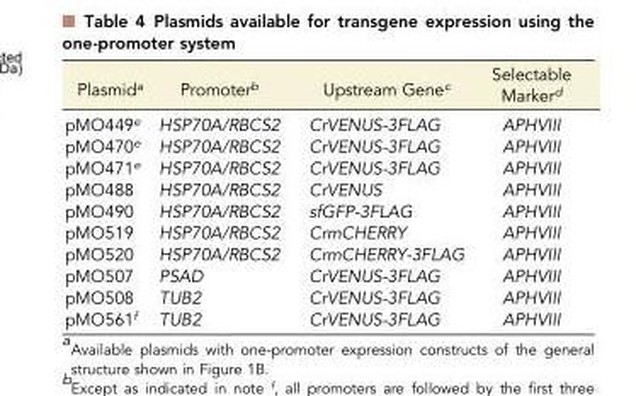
<table><thead><tr><td>Plasmid<sup>a</sup></td><td>Promoter<sup>b</sup></td><td>Upstream Gene<sup>c</sup></td><td>Selectable Marker<sup>d</sup></td></tr></thead><tbody><tr><td>pMO449<sup>e</sup></td><td>HSP70A/RBCS2</td><td>CrVENUS-3FLAG</td><td>APHVIII</td></tr><tr><td>pMO470<sup>e</sup></td><td>HSP70A/RBCS2</td><td>CrVENUS-3FLAG</td><td>APHVIII</td></tr><tr><td>pMO471<sup>e</sup></td><td>HSP70A/RBCS2</td><td>CrVENUS-3FLAG</td><td>APHVIII</td></tr><tr><td>pMO488</td><td>HSP70A/RBCS2</td><td>CrVENUS</td><td>APHVIII</td></tr><tr><td>pMO490</td><td>HSP70A/RBCS2</td><td>sfGFP-3FLAG</td><td>APHVIII</td></tr><tr><td>pMO519</td><td>HSP70A/RBCS2</td><td>CrmCHERRY</td><td>APHVIII</td></tr><tr><td>pMO520</td><td>HSP70A/RBCS2</td><td>CrmCHERRY-3FLAG</td><td>APHVIII</td></tr><tr><td>pMO507</td><td>PSAD</td><td>CrVENUS-3FLAG</td><td>APHVIII</td></tr><tr><td>pMO508</td><td>TUB2</td><td>CrVENUS-3FLAG</td><td>APHVIII</td></tr><tr><td>pMO561<sup>f</sup></td><td>TUB2</td><td>CrVENUS-3FLAG</td><td>APHVIII</td></tr></tbody></table>